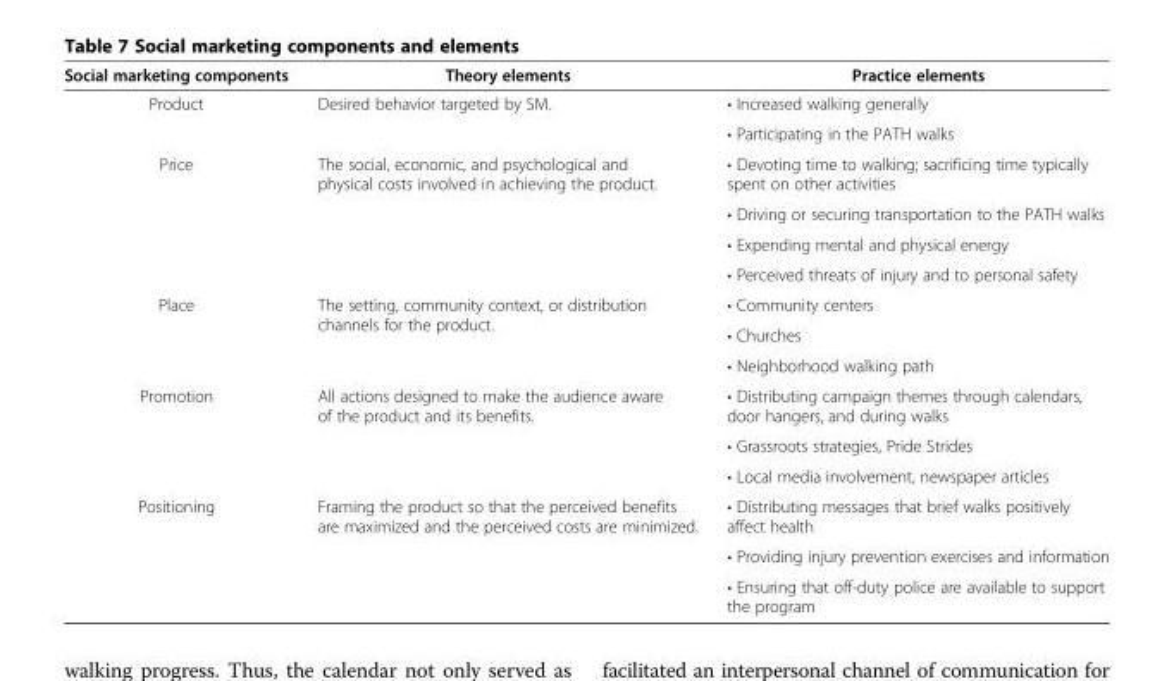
<table><thead><tr><td>Social marketing components</td><td>Theory elements</td><td>Practice elements</td></tr></thead><tbody><tr><td rowspan="2">Product</td><td rowspan="2">Desired behavior targeted by SM.</td><td>• Increased walking generally</td></tr><tr><td>• Participating in the PATH walks</td></tr><tr><td rowspan="4">Price</td><td rowspan="4">The social, economic, and psychological and physical costs involved in achieving the product.</td><td>• Devoting time to walking; sacrificing time typically spent on other activities</td></tr><tr><td>• Driving or securing transportation to the PATH walks</td></tr><tr><td>• Expending mental and physical energy</td></tr><tr><td>• Perceived threats of injury and to personal safety</td></tr><tr><td rowspan="3">Place</td><td rowspan="3">The setting, community context, or distribution channels for the product.</td><td>• Community centers</td></tr><tr><td>• Churches</td></tr><tr><td>• Neighborhood walking path</td></tr><tr><td rowspan="3">Promotion</td><td rowspan="3">All actions designed to make the audience aware of the product and its benefits.</td><td>• Distributing campaign themes through calendars, door hangers, and during walks</td></tr><tr><td>• Grassroots strategies, Pride Strides</td></tr><tr><td>• Local media involvement, newspaper articles</td></tr><tr><td rowspan="3">Positioning</td><td rowspan="3">Framing the product so that the perceived benefits are maximized and the perceived costs are minimized.</td><td>• Distributing messages that brief walks positively affect health</td></tr><tr><td>• Providing injury prevention exercises and information</td></tr><tr><td>• Ensuring that off-duty police are available to support the program</td></tr></tbody></table>